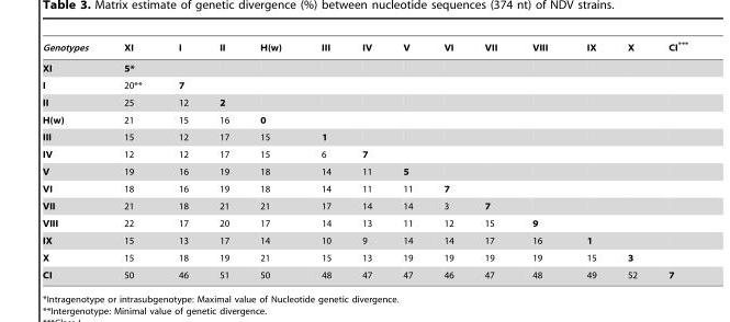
<table><thead><tr><td>Genotypes</td><td>XI</td><td>I</td><td>II</td><td>H(w)</td><td>III</td><td>IV</td><td>V</td><td>VI</td><td>VII</td><td>VIII</td><td>IX</td><td>X</td><td>CI***</td></tr></thead><tbody><tr><td>XI</td><td>5*</td><td></td><td></td><td></td><td></td><td></td><td></td><td></td><td></td><td></td><td></td><td></td><td></td></tr><tr><td>I</td><td>20**</td><td>7</td><td></td><td></td><td></td><td></td><td></td><td></td><td></td><td></td><td></td><td></td><td></td></tr><tr><td>II</td><td>25</td><td>12</td><td>2</td><td></td><td></td><td></td><td></td><td></td><td></td><td></td><td></td><td></td><td></td></tr><tr><td>H(w)</td><td>21</td><td>15</td><td>16</td><td>0</td><td></td><td></td><td></td><td></td><td></td><td></td><td></td><td></td><td></td></tr><tr><td>III</td><td>15</td><td>12</td><td>17</td><td>15</td><td>1</td><td></td><td></td><td></td><td></td><td></td><td></td><td></td><td></td></tr><tr><td>IV</td><td>12</td><td>12</td><td>17</td><td>15</td><td>6</td><td>7</td><td></td><td></td><td></td><td></td><td></td><td></td><td></td></tr><tr><td>V</td><td>19</td><td>16</td><td>19</td><td>18</td><td>14</td><td>11</td><td>5</td><td></td><td></td><td></td><td></td><td></td><td></td></tr><tr><td>VI</td><td>18</td><td>16</td><td>19</td><td>18</td><td>14</td><td>11</td><td>11</td><td>7</td><td></td><td></td><td></td><td></td><td></td></tr><tr><td>VII</td><td>21</td><td>18</td><td>21</td><td>21</td><td>17</td><td>14</td><td>14</td><td>3</td><td>7</td><td></td><td></td><td></td><td></td></tr><tr><td>VIII</td><td>22</td><td>17</td><td>20</td><td>17</td><td>14</td><td>13</td><td>11</td><td>12</td><td>15</td><td>9</td><td></td><td></td><td></td></tr><tr><td>IX</td><td>15</td><td>13</td><td>17</td><td>14</td><td>10</td><td>9</td><td>14</td><td>14</td><td>17</td><td>16</td><td>1</td><td></td><td></td></tr><tr><td>X</td><td>15</td><td>18</td><td>19</td><td>21</td><td>15</td><td>13</td><td>19</td><td>19</td><td>19</td><td>19</td><td>15</td><td>3</td><td></td></tr><tr><td>CI</td><td>50</td><td>46</td><td>51</td><td>50</td><td>48</td><td>47</td><td>47</td><td>46</td><td>47</td><td>48</td><td>49</td><td>52</td><td>7</td></tr></tbody></table>